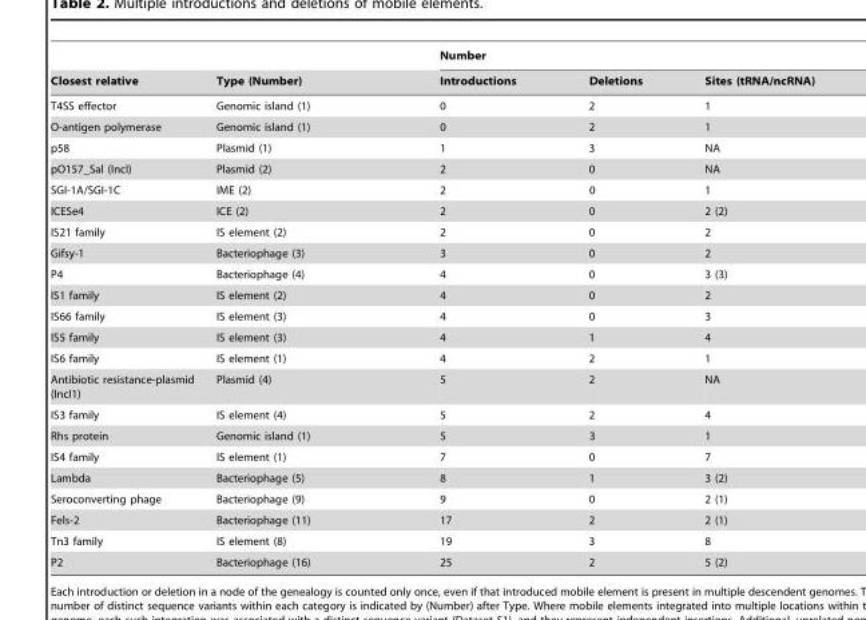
<table><thead><tr><td rowspan="2">Closest relative</td><td rowspan="2">Type (Number)</td><td colspan="3">Number</td></tr><tr><td>Introductions</td><td>Deletions</td><td>Sites (tRNA/ncRNA)</td></tr></thead><tbody><tr><td>T4SS effector</td><td>Genomic island (1)</td><td>0</td><td>2</td><td>1</td></tr><tr><td>O-antigen polymerase</td><td>Genomic island (1)</td><td>0</td><td>2</td><td>1</td></tr><tr><td>p58</td><td>Plasmid (1)</td><td>1</td><td>3</td><td>NA</td></tr><tr><td>pO157_Sal (IncI)</td><td>Plasmid (2)</td><td>2</td><td>0</td><td>NA</td></tr><tr><td>SGI-1A/SGI-1C</td><td>IME (2)</td><td>2</td><td>0</td><td>1</td></tr><tr><td>ICESe4</td><td>ICE (2)</td><td>2</td><td>0</td><td>2 (2)</td></tr><tr><td>IS21 family</td><td>IS element (2)</td><td>2</td><td>0</td><td>2</td></tr><tr><td>Gifsy-1</td><td>Bacteriophage (3)</td><td>3</td><td>0</td><td>2</td></tr><tr><td>P4</td><td>Bacteriophage (4)</td><td>4</td><td>0</td><td>3 (3)</td></tr><tr><td>IS1 family</td><td>IS element (2)</td><td>4</td><td>0</td><td>2</td></tr><tr><td>IS66 family</td><td>IS element (3)</td><td>4</td><td>0</td><td>3</td></tr><tr><td>IS5 family</td><td>IS element (3)</td><td>4</td><td>1</td><td>4</td></tr><tr><td>IS6 family</td><td>IS element (1)</td><td>4</td><td>2</td><td>1</td></tr><tr><td>Antibiotic resistance-plasmid (IncI1)</td><td>Plasmid (4)</td><td>5</td><td>2</td><td>NA</td></tr><tr><td>IS3 family</td><td>IS element (4)</td><td>5</td><td>2</td><td>4</td></tr><tr><td>Rhs protein</td><td>Genomic island (1)</td><td>5</td><td>3</td><td>1</td></tr><tr><td>IS4 family</td><td>IS element (1)</td><td>7</td><td>0</td><td>7</td></tr><tr><td>Lambda</td><td>Bacteriophage (5)</td><td>8</td><td>1</td><td>3 (2)</td></tr><tr><td>Seroconverting phage</td><td>Bacteriophage (9)</td><td>9</td><td>0</td><td>2 (1)</td></tr><tr><td>Fels-2</td><td>Bacteriophage (11)</td><td>17</td><td>2</td><td>2 (1)</td></tr><tr><td>Tn3 family</td><td>IS element (8)</td><td>19</td><td>3</td><td>8</td></tr><tr><td>P2</td><td>Bacteriophage (16)</td><td>25</td><td>2</td><td>5 (2)</td></tr></tbody></table>